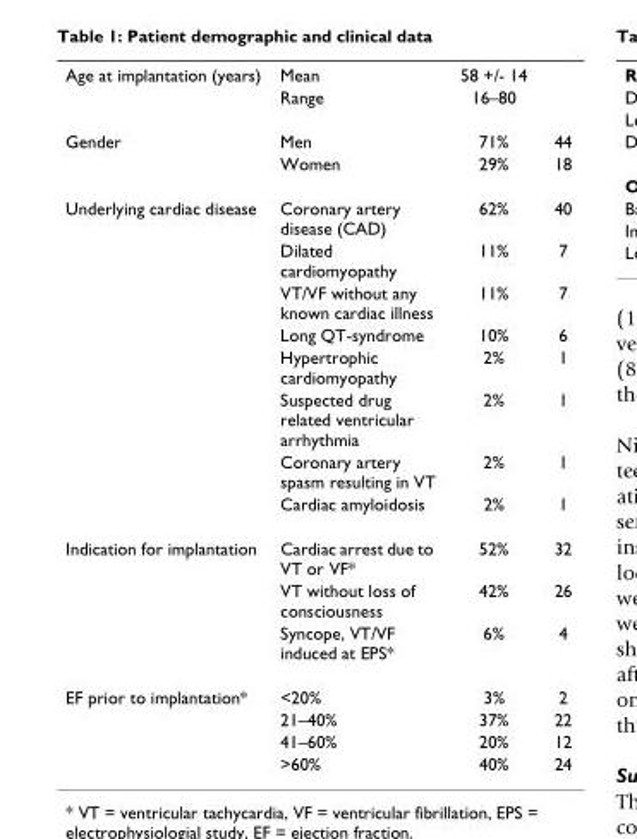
<table><tbody><tr><td rowspan="2">Age at implantation (years)</td><td>Mean</td><td>58 +/- 14</td><td></td></tr><tr><td>Range</td><td>16–80</td><td></td></tr><tr><td rowspan="2">Gender</td><td>Men</td><td>71%</td><td>44</td></tr><tr><td>Women</td><td>29%</td><td>18</td></tr><tr><td rowspan="8">Underlying cardiac disease</td><td>Coronary artery disease (CAD)</td><td>62%</td><td>40</td></tr><tr><td>Dilated cardiomyopathy</td><td>11%</td><td>7</td></tr><tr><td>VT/VF without any known cardiac illness</td><td>11%</td><td>7</td></tr><tr><td>Long QT-syndrome</td><td>10%</td><td>6</td></tr><tr><td>Hypertrophic cardiomyopathy</td><td>2%</td><td>1</td></tr><tr><td>Suspected drug related ventricular arrhythmia</td><td>2%</td><td>1</td></tr><tr><td>Coronary artery spasm resulting in VT</td><td>2%</td><td>1</td></tr><tr><td>Cardiac amyloidosis</td><td>2%</td><td>1</td></tr><tr><td rowspan="3">Indication for implantation</td><td>Cardiac arrest due to VT or VF*</td><td>52%</td><td>32</td></tr><tr><td>VT without loss of consciousness</td><td>42%</td><td>26</td></tr><tr><td>Syncope, VT/VF induced at EPS*</td><td>6%</td><td>4</td></tr><tr><td rowspan="4">EF prior to implantation*</td><td>&lt;20%</td><td>3%</td><td>2</td></tr><tr><td>21–40%</td><td>37%</td><td>22</td></tr><tr><td>41–60%</td><td>20%</td><td>12</td></tr><tr><td>&gt;60%</td><td>40%</td><td>24</td></tr></tbody></table>